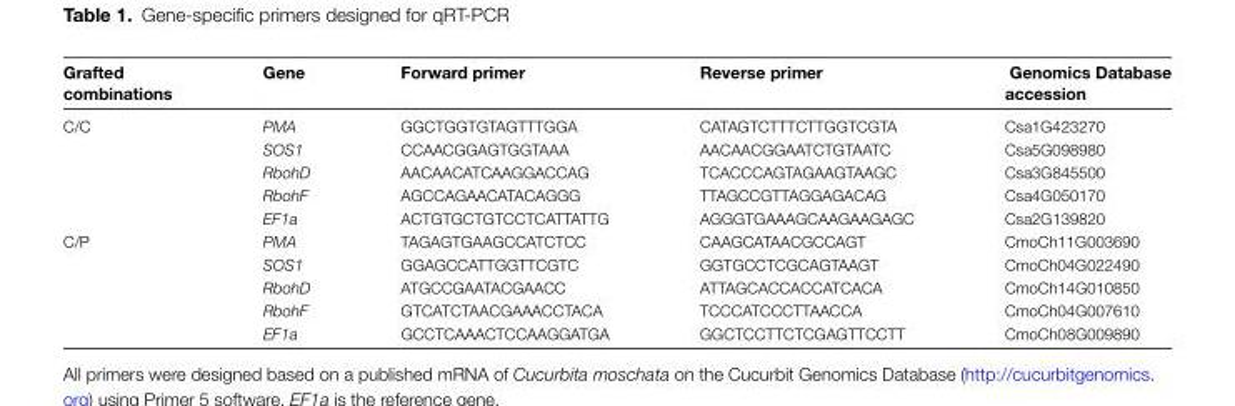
<table><thead><tr><td>Grafted combinations</td><td>Gene</td><td>Forward primer</td><td>Reverse primer</td><td>Genomics Database accession</td></tr></thead><tbody><tr><td rowspan="5">C/C</td><td>PMA</td><td>GGCTGGTGTAGTTTGGA</td><td>CATAGTCTTTCTTGGTCGTA</td><td>Csa1G423270</td></tr><tr><td>SOS1</td><td>CCAACGGAGTGGTAAA</td><td>AACAACGGAATCTGTAATC</td><td>Csa5G098980</td></tr><tr><td>RbohD</td><td>AACAACATCAAGGACCAG</td><td>TCACCCAGTAGAAGTAAGC</td><td>Csa3G845500</td></tr><tr><td>RbohF</td><td>AGCCAGAACATACAGGG</td><td>TTAGCCGTTAGGAGACAG</td><td>Csa4G050170</td></tr><tr><td>EF1a</td><td>ACTGTGCTGTCCTCATTATTG</td><td>AGGGTGAAAGCAAGAAGAGC</td><td>Csa2G139820</td></tr><tr><td rowspan="5">C/P</td><td>PMA</td><td>TAGAGTGAAGCCATCTCC</td><td>CAAGCATAACGCCAGT</td><td>CmoCh11G003690</td></tr><tr><td>SOS1</td><td>GGAGCCATTGGTTCGTC</td><td>GGTGCCTCGCAGTAAGT</td><td>CmoCh04G022490</td></tr><tr><td>RbohD</td><td>ATGCCGAATACGAACC</td><td>ATTAGCACCACCATCACA</td><td>CmoCh14G010850</td></tr><tr><td>RbohF</td><td>GTCATCTAACGAAACCTACA</td><td>TCCCATCCCTTAACCA</td><td>CmoCh04G007610</td></tr><tr><td>EF1a</td><td>GCCTCAAACTCCAAGGATGA</td><td>GGCTCCTTCTCGAGTTCCTT</td><td>CmoCh08G009890</td></tr></tbody></table>